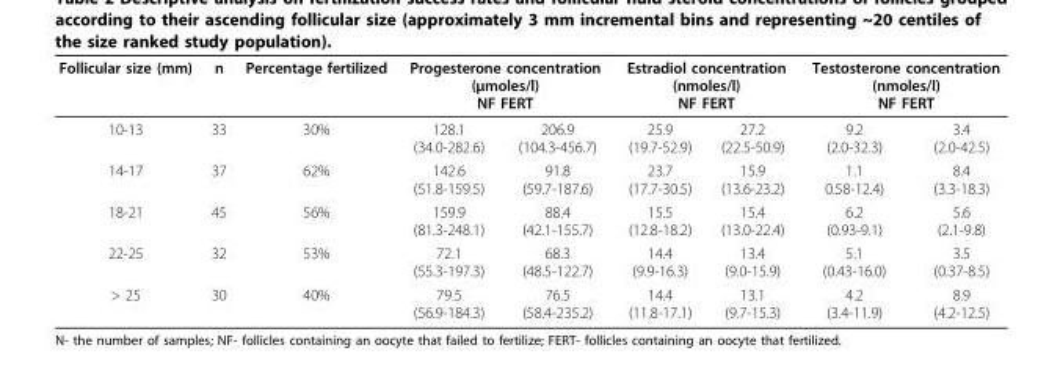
<table><thead><tr><td rowspan="2">Follicular size (mm) 10-13</td><td rowspan="2">n 33</td><td rowspan="2">Percentage fertilized 30%</td><td colspan="2">Progesterone concentration (μmoles/l) NF FERT</td><td colspan="2">Estradiol concentration (nmoles/l) NF FERT</td><td colspan="2">Testosterone concentration (nmoles/l) NF FERT</td></tr><tr><td>128.1 (34.0-282.6)</td><td>206.9 (104.3-456.7)</td><td>25.9 (19.7-52.9)</td><td>27.2 (22.5-50.9)</td><td>9.2 (2.0-32.3)</td><td>3.4 (2.0-42.5)</td></tr></thead><tbody><tr><td>14-17</td><td>37</td><td>62%</td><td>142.6 (51.8-159.5)</td><td>91.8 (59.7-187.6)</td><td>23.7 (17.7-30.5)</td><td>15.9 (13.6-23.2)</td><td>1.1 0.58-12.4)</td><td>8.4 (3.3-18.3)</td></tr><tr><td>18-21</td><td>45</td><td>56%</td><td>159.9 (81.3-248.1)</td><td>88.4 (42.1-155.7)</td><td>15.5 (12.8-18.2)</td><td>15.4 (13.0-22.4)</td><td>6.2 (0.93-9.1)</td><td>5.6 (2.1-9.8)</td></tr><tr><td>22-25</td><td>32</td><td>53%</td><td>72.1 (55.3-197.3)</td><td>68.3 (48.5-122.7)</td><td>14.4 (9.9-16.3)</td><td>13.4 (9.0-15.9)</td><td>5.1 (0.43-16.0)</td><td>3.5 (0.37-8.5)</td></tr><tr><td>&gt; 25</td><td>30</td><td>40%</td><td>79.5 (56.9-184.3)</td><td>76.5 (58.4-235.2)</td><td>14.4 (11.8-17.1)</td><td>13.1 (9.7-15.3)</td><td>4.2 (3.4-11.9)</td><td>8.9 (4.2-12.5)</td></tr></tbody></table>